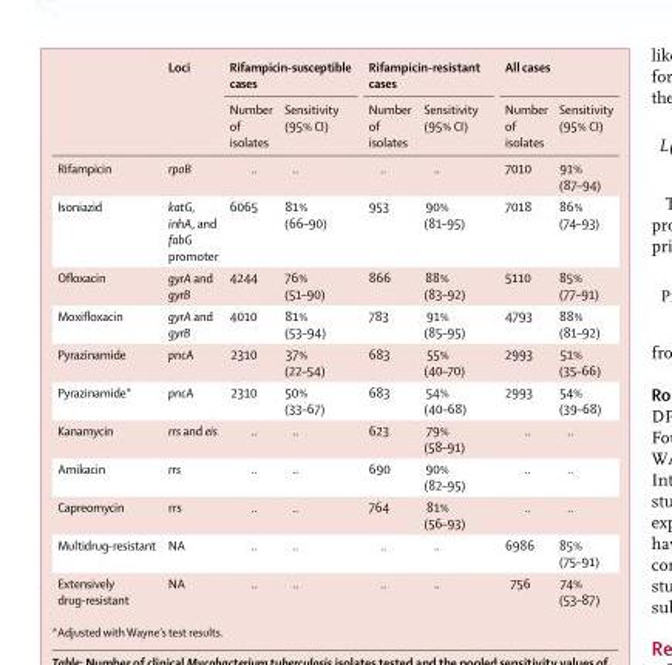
<table><thead><tr><td rowspan="2"></td><td rowspan="2">Loci</td><td colspan="2">Rifampicin-susceptible cases</td><td colspan="2">Rifampicin-resistant cases</td><td colspan="2">All cases</td></tr><tr><td>Number of isolates</td><td>Sensitivity (95% CI)</td><td>Number of isolates</td><td>Sensitivity (95% CI)</td><td>Number of isolates</td><td>Sensitivity (95% CI)</td></tr></thead><tbody><tr><td>Rifampicin</td><td>rpoB</td><td>..</td><td>..</td><td>..</td><td>..</td><td>7010</td><td>91% (87–94)</td></tr><tr><td>Isoniazid</td><td>katG, inhA, and fabG promoter</td><td>6065</td><td>81% (66–90)</td><td>953</td><td>90% (81–95)</td><td>7018</td><td>86% (74–93)</td></tr><tr><td>Ofloxacin</td><td>gyrA and gyrB</td><td>4244</td><td>76% (51–90)</td><td>866</td><td>88% (83–92)</td><td>5110</td><td>85% (77–91)</td></tr><tr><td>Moxifloxacin</td><td>gyrA and gyrB</td><td>4010</td><td>81% (53–94)</td><td>783</td><td>91% (85–95)</td><td>4793</td><td>88% (81–92)</td></tr><tr><td>Pyrazinamide</td><td>pncA</td><td>2310</td><td>37% (22–54)</td><td>683</td><td>55% (40–70)</td><td>2993</td><td>51% (35–66)</td></tr><tr><td>Pyrazinamide*</td><td>pncA</td><td>2310</td><td>50% (33–67)</td><td>683</td><td>54% (40–68)</td><td>2993</td><td>54% (39–68)</td></tr><tr><td>Kanamycin</td><td>rrs and eis</td><td>..</td><td>..</td><td>623</td><td>79% (58–91)</td><td>..</td><td>..</td></tr><tr><td>Amikacin</td><td>rrs</td><td>..</td><td>..</td><td>690</td><td>90% (82–95)</td><td>..</td><td>..</td></tr><tr><td>Capreomycin</td><td>rrs</td><td>..</td><td>..</td><td>764</td><td>81% (56–93)</td><td>..</td><td>..</td></tr><tr><td>Multidrug-resistant</td><td>NA</td><td>..</td><td>..</td><td>..</td><td>..</td><td>6986</td><td>85% (75–91)</td></tr><tr><td>Extensively drug-resistant</td><td>NA</td><td>..</td><td>..</td><td>..</td><td>..</td><td>756</td><td>74% (53–87)</td></tr></tbody></table>